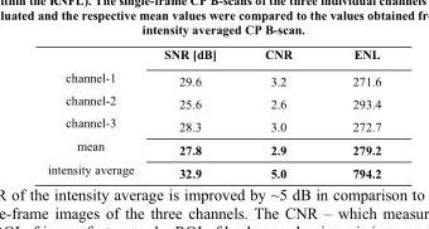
<table><thead><tr><td></td><td>SNR [dB]</td><td>CNR</td><td>ENL</td></tr></thead><tbody><tr><td>channel-1</td><td>29.6</td><td>3.2</td><td>271.6</td></tr><tr><td>channel-2</td><td>25.6</td><td>2.6</td><td>293.4</td></tr><tr><td>channel-3</td><td>28.3</td><td>3.0</td><td>272.7</td></tr><tr><td>mean</td><td>27.8</td><td>2.9</td><td>279.2</td></tr><tr><td>intensity average</td><td>32.9</td><td>5.0</td><td>794.2</td></tr></tbody></table>